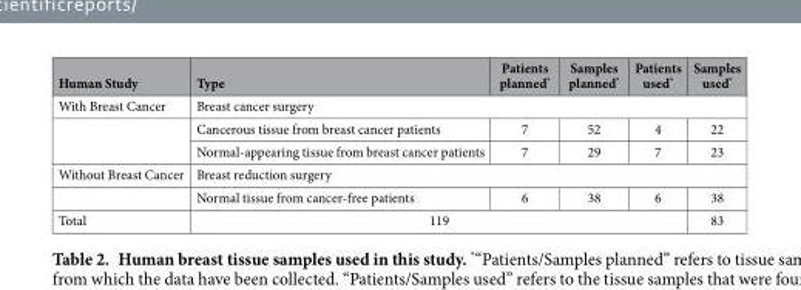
<table><thead><tr><td>Human Study</td><td>Type</td><td>Patients planned*</td><td>Samples planned*</td><td>Patients used*</td><td>Samples used*</td></tr></thead><tbody><tr><td rowspan="3">With Breast Cancer</td><td>Breast cancer surgery</td><td></td><td></td><td></td><td></td></tr><tr><td>Cancerous tissue from breast cancer patients</td><td>7</td><td>52</td><td>4</td><td>22</td></tr><tr><td>Normal-appearing tissue from breast cancer patients</td><td>7</td><td>29</td><td>7</td><td>23</td></tr><tr><td rowspan="2">Without Breast Cancer</td><td colspan="5">Breast reduction surgery</td></tr><tr><td>Normal tissue from cancer-free patients</td><td>6</td><td>38</td><td>6</td><td>38</td></tr><tr><td>Total</td><td colspan="4">119</td><td>83</td></tr></tbody></table>